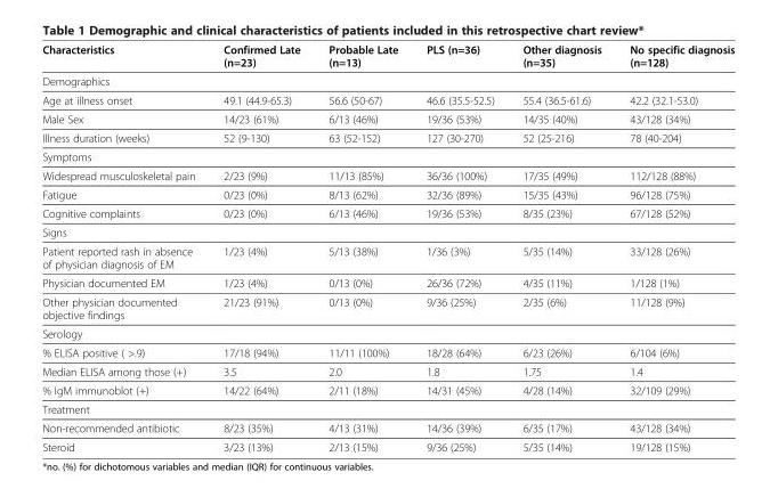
<table><thead><tr><td>Characteristics</td><td>Confirmed Late (n=23)</td><td>Probable Late (n=13)</td><td>PLS (n=36)</td><td>Other diagnosis (n=35)</td><td>No specific diagnosis (n=128)</td></tr></thead><tbody><tr><td colspan="6">Demographics</td></tr><tr><td>Age at illness onset</td><td>49.1 (44.9-65.3)</td><td>56.6 (50-67)</td><td>46.6 (35.5-52.5)</td><td>55.4 (36.5-61.6)</td><td>42.2 (32.1-53.0)</td></tr><tr><td>Male Sex</td><td>14/23 (61%)</td><td>6/13 (46%)</td><td>19/36 (53%)</td><td>14/35 (40%)</td><td>43/128 (34%)</td></tr><tr><td>Illness duration (weeks)</td><td>52 (9-130)</td><td>63 (52-152)</td><td>127 (30-270)</td><td>52 (25-216)</td><td>78 (40-204)</td></tr><tr><td colspan="6">Symptoms</td></tr><tr><td>Widespread musculoskeletal pain</td><td>2/23 (9%)</td><td>11/13 (85%)</td><td>36/36 (100%)</td><td>17/35 (49%)</td><td>112/128 (88%)</td></tr><tr><td>Fatigue</td><td>0/23 (0%)</td><td>8/13 (62%)</td><td>32/36 (89%)</td><td>15/35 (43%)</td><td>96/128 (75%)</td></tr><tr><td>Cognitive complaints</td><td>0/23 (0%)</td><td>6/13 (46%)</td><td>19/36 (53%)</td><td>8/35 (23%)</td><td>67/128 (52%)</td></tr><tr><td colspan="6">Signs</td></tr><tr><td>Patient reported rash in absence of physician diagnosis of EM</td><td>1/23 (4%)</td><td>5/13 (38%)</td><td>1/36 (3%)</td><td>5/35 (14%)</td><td>33/128 (26%)</td></tr><tr><td>Physician documented EM</td><td>1/23 (4%)</td><td>0/13 (0%)</td><td>26/36 (72%)</td><td>4/35 (11%)</td><td>1/128 (1%)</td></tr><tr><td>Other physician documented objective findings</td><td>21/23 (91%)</td><td>0/13 (0%)</td><td>9/36 (25%)</td><td>2/35 (6%)</td><td>11/128 (9%)</td></tr><tr><td colspan="6">Serology</td></tr><tr><td>% ELISA positive ( &gt;.9)</td><td>17/18 (94%)</td><td>11/11 (100%)</td><td>18/28 (64%)</td><td>6/23 (26%)</td><td>6/104 (6%)</td></tr><tr><td>Median ELISA among those (+)</td><td>3.5</td><td>2.0</td><td>1.8</td><td>1.75</td><td>1.4</td></tr><tr><td>% IgM immunoblot (+)</td><td>14/22 (64%)</td><td>2/11 (18%)</td><td>14/31 (45%)</td><td>4/28 (14%)</td><td>32/109 (29%)</td></tr><tr><td colspan="6">Treatment</td></tr><tr><td>Non-recommended antibiotic</td><td>8/23 (35%)</td><td>4/13 (31%)</td><td>14/36 (39%)</td><td>6/35 (17%)</td><td>43/128 (34%)</td></tr><tr><td>Steroid</td><td>3/23 (13%)</td><td>2/13 (15%)</td><td>9/36 (25%)</td><td>5/35 (14%)</td><td>19/128 (15%)</td></tr></tbody></table>